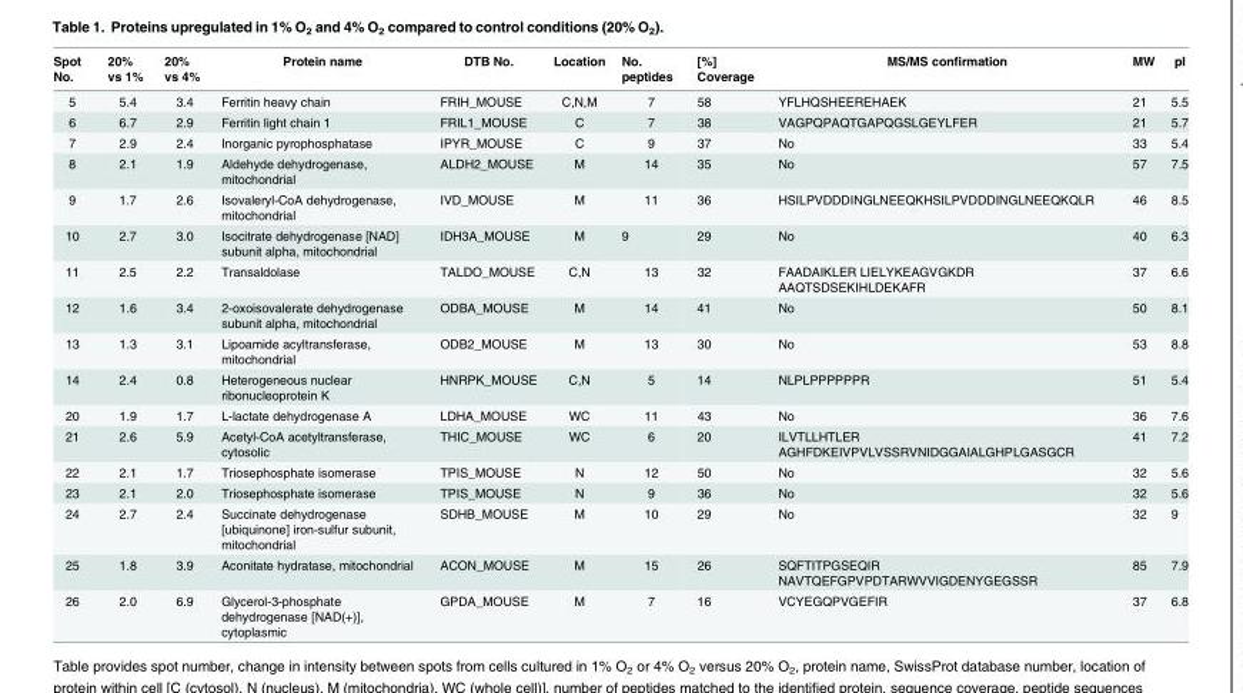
<table><thead><tr><td>Spot No.</td><td>20% vs 1%</td><td>20% vs 4%</td><td>Protein name</td><td>DTB No.</td><td>Location</td><td>No. peptides</td><td>[%] Coverage</td><td>MS/MS confirmation</td><td>MW</td><td>pI</td></tr></thead><tbody><tr><td>5</td><td>5.4</td><td>3.4</td><td>Ferritin heavy chain</td><td>FRIH_MOUSE</td><td>C,N,M</td><td>7</td><td>58</td><td>YFLHQSHEEREHAEK</td><td>21</td><td>5.5</td></tr><tr><td>6</td><td>6.7</td><td>2.9</td><td>Ferritin light chain 1</td><td>FRIL1_MOUSE</td><td>C</td><td>7</td><td>38</td><td>VAGPQPAQTGAPQGSLGEYLFER</td><td>21</td><td>5.7</td></tr><tr><td>7</td><td>2.9</td><td>2.4</td><td>Inorganic pyrophosphatase</td><td>IPYR_MOUSE</td><td>C</td><td>9</td><td>37</td><td>No</td><td>33</td><td>5.4</td></tr><tr><td>8</td><td>2.1</td><td>1.9</td><td>Aldehyde dehydrogenase, mitochondrial</td><td>ALDH2_MOUSE</td><td>M</td><td>14</td><td>35</td><td>No</td><td>57</td><td>7.5</td></tr><tr><td>9</td><td>1.7</td><td>2.6</td><td>Isovaleryl-CoA dehydrogenase, mitochondrial</td><td>IVD_MOUSE</td><td>M</td><td>11</td><td>36</td><td>HSILPVDDDINGLNEEQKHSILPVDDDINGLNEEQKQLR</td><td>46</td><td>8.5</td></tr><tr><td>10</td><td>2.7</td><td>3.0</td><td>Isocitrate dehydrogenase [NAD] subunit alpha, mitochondrial</td><td>IDH3A_MOUSE</td><td>M</td><td>9</td><td>29</td><td>No</td><td>40</td><td>6.3</td></tr><tr><td>11</td><td>2.5</td><td>2.2</td><td>Transaldolase</td><td>TALDO_MOUSE</td><td>C,N</td><td>13</td><td>32</td><td>FAADAIKLER LIELYKEAGVGKDR AAQTSDSEKIHLDEKAFR</td><td>37</td><td>6.6</td></tr><tr><td>12</td><td>1.6</td><td>3.4</td><td>2-oxoisovalerate dehydrogenase subunit alpha, mitochondrial</td><td>ODBA_MOUSE</td><td>M</td><td>14</td><td>41</td><td>No</td><td>50</td><td>8.1</td></tr><tr><td>13</td><td>1.3</td><td>3.1</td><td>Lipoamide acyltransferase, mitochondrial</td><td>ODB2_MOUSE</td><td>M</td><td>13</td><td>30</td><td>No</td><td>53</td><td>8.8</td></tr><tr><td>14</td><td>2.4</td><td>0.8</td><td>Heterogeneous nuclear ribonucleoprotein K</td><td>HNRPK_MOUSE</td><td>C,N</td><td>5</td><td>14</td><td>NLPLPPPPPPR</td><td>51</td><td>5.4</td></tr><tr><td>20</td><td>1.9</td><td>1.7</td><td>L-lactate dehydrogenase A</td><td>LDHA_MOUSE</td><td>WC</td><td>11</td><td>43</td><td>No</td><td>36</td><td>7.6</td></tr><tr><td>21</td><td>2.6</td><td>5.9</td><td>Acetyl-CoA acetyltransferase, cytosolic</td><td>THIC_MOUSE</td><td>WC</td><td>6</td><td>20</td><td>ILVTLLHTLER AGHFDKEIVPVLVSSRVNIDGGAIALGHPLGASGCR</td><td>41</td><td>7.2</td></tr><tr><td>22</td><td>2.1</td><td>1.7</td><td>Triosephosphate isomerase</td><td>TPIS_MOUSE</td><td>N</td><td>12</td><td>50</td><td>No</td><td>32</td><td>5.6</td></tr><tr><td>23</td><td>2.1</td><td>2.0</td><td>Triosephosphate isomerase</td><td>TPIS_MOUSE</td><td>N</td><td>9</td><td>36</td><td>No</td><td>32</td><td>5.6</td></tr><tr><td>24</td><td>2.7</td><td>2.4</td><td>Succinate dehydrogenase [ubiquinone] iron-sulfur subunit, mitochondrial</td><td>SDHB_MOUSE</td><td>M</td><td>10</td><td>29</td><td>No</td><td>32</td><td>9</td></tr><tr><td>25</td><td>1.8</td><td>3.9</td><td>Aconitate hydratase, mitochondrial</td><td>ACON_MOUSE</td><td>M</td><td>15</td><td>26</td><td>SQFTITPGSEQIR NAVTQEFGPVPDTARWVVIGDENYGEGSSR</td><td>85</td><td>7.9</td></tr><tr><td>26</td><td>2.0</td><td>6.9</td><td>Glycerol-3-phosphate dehydrogenase [NAD(+)], cytoplasmic</td><td>GPDA_MOUSE</td><td>M</td><td>7</td><td>16</td><td>VCYEGQPVGEFIR</td><td>37</td><td>6.8</td></tr></tbody></table>